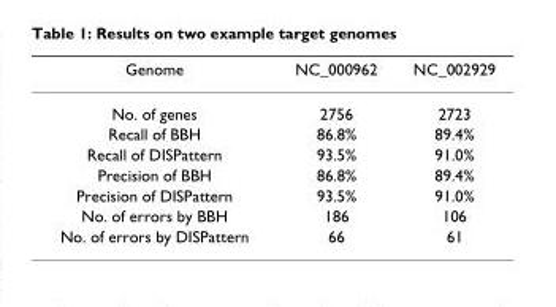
<table><thead><tr><td>Genome</td><td>NC_000962</td><td>NC_002929</td></tr></thead><tbody><tr><td>No. of genes</td><td>2756</td><td>2723</td></tr><tr><td>Recall of BBH</td><td>86.8%</td><td>89.4%</td></tr><tr><td>Recall of DISPattern</td><td>93.5%</td><td>91.0%</td></tr><tr><td>Precision of BBH</td><td>86.8%</td><td>89.4%</td></tr><tr><td>Precision of DISPattern</td><td>93.5%</td><td>91.0%</td></tr><tr><td>No. of errors by BBH</td><td>186</td><td>106</td></tr><tr><td>No. of errors by DISPattern</td><td>66</td><td>61</td></tr></tbody></table>